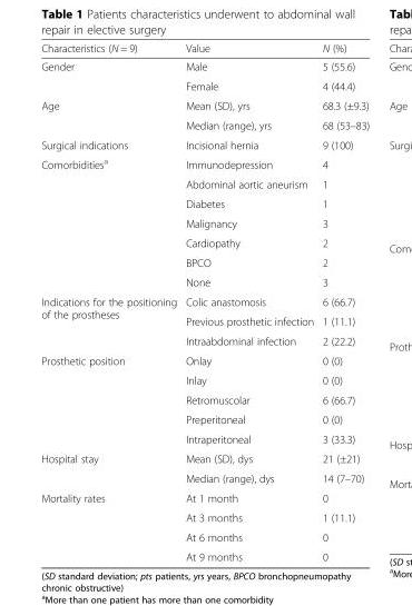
<table><thead><tr><td>Characteristics (N = 9)</td><td>Value</td><td>N (%)</td></tr></thead><tbody><tr><td rowspan="2">Gender</td><td>Male</td><td>5 (55.6)</td></tr><tr><td>Female</td><td>4 (44.4)</td></tr><tr><td rowspan="2">Age</td><td>Mean (SD), yrs</td><td>68.3 (±9.3)</td></tr><tr><td>Median (range), yrs</td><td>68 (53–83)</td></tr><tr><td>Surgical indications</td><td>Incisional hernia</td><td>9 (100)</td></tr><tr><td rowspan="7">Comorbidities<sup>a</sup></td><td>Immunodepression</td><td>4</td></tr><tr><td>Abdominal aortic aneurism</td><td>1</td></tr><tr><td>Diabetes</td><td>1</td></tr><tr><td>Malignancy</td><td>3</td></tr><tr><td>Cardiopathy</td><td>2</td></tr><tr><td>BPCO</td><td>2</td></tr><tr><td>None</td><td>3</td></tr><tr><td rowspan="3">Indications for the positioning of the prostheses</td><td>Colic anastomosis</td><td>6 (66.7)</td></tr><tr><td>Previous prosthetic infection</td><td>1 (11.1)</td></tr><tr><td>Intraabdominal infection</td><td>2 (22.2)</td></tr><tr><td rowspan="5">Prosthetic position</td><td>Onlay</td><td>0 (0)</td></tr><tr><td>Inlay</td><td>0 (0)</td></tr><tr><td>Retromuscolar</td><td>6 (66.7)</td></tr><tr><td>Preperitoneal</td><td>0 (0)</td></tr><tr><td>Intraperitoneal</td><td>3 (33.3)</td></tr><tr><td rowspan="2">Hospital stay</td><td>Mean (SD), dys</td><td>21 (±21)</td></tr><tr><td>Median (range), dys</td><td>14 (7–70)</td></tr><tr><td rowspan="4">Mortality rates</td><td>At 1 month</td><td>0</td></tr><tr><td>At 3 months</td><td>1 (11.1)</td></tr><tr><td>At 6 months</td><td>0</td></tr><tr><td>At 9 months</td><td>0</td></tr></tbody></table>